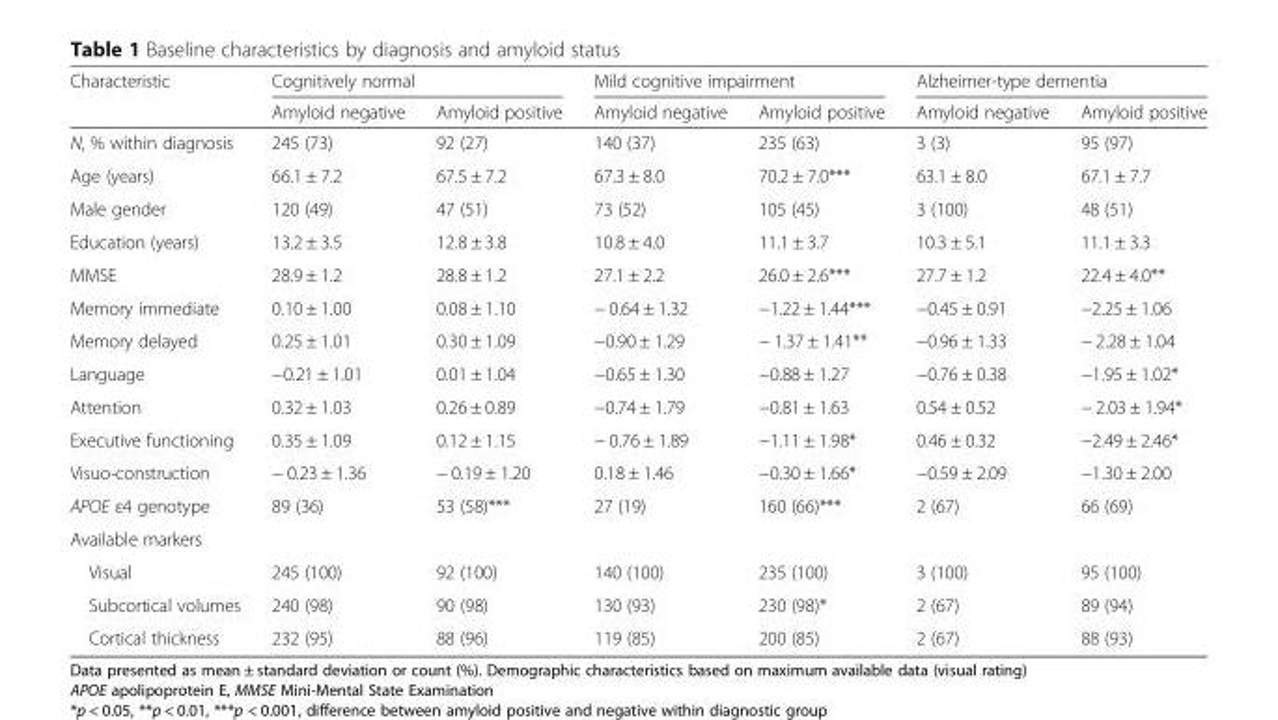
<table><thead><tr><td rowspan="2">Characteristic</td><td colspan="2">Cognitively normal</td><td colspan="2">Mild cognitive impairment</td><td colspan="2">Alzheimer-type dementia</td></tr><tr><td>Amyloid negative</td><td>Amyloid positive</td><td>Amyloid negative</td><td>Amyloid positive</td><td>Amyloid negative</td><td>Amyloid positive</td></tr></thead><tbody><tr><td>N, % within diagnosis</td><td>245 (73)</td><td>92 (27)</td><td>140 (37)</td><td>235 (63)</td><td>3 (3)</td><td>95 (97)</td></tr><tr><td>Age (years)</td><td>66.1 ± 7.2</td><td>67.5 ± 7.2</td><td>67.3 ± 8.0</td><td>70.2 ± 7.0***</td><td>63.1 ± 8.0</td><td>67.1 ± 7.7</td></tr><tr><td>Male gender</td><td>120 (49)</td><td>47 (51)</td><td>73 (52)</td><td>105 (45)</td><td>3 (100)</td><td>48 (51)</td></tr><tr><td>Education (years)</td><td>13.2 ± 3.5</td><td>12.8 ± 3.8</td><td>10.8 ± 4.0</td><td>11.1 ± 3.7</td><td>10.3 ± 5.1</td><td>11.1 ± 3.3</td></tr><tr><td>MMSE</td><td>28.9 ± 1.2</td><td>28.8 ± 1.2</td><td>27.1 ± 2.2</td><td>26.0 ± 2.6***</td><td>27.7 ± 1.2</td><td>22.4 ± 4.0**</td></tr><tr><td>Memory immediate</td><td>0.10 ± 1.00</td><td>0.08 ± 1.10</td><td>− 0.64 ± 1.32</td><td>−1.22 ± 1.44***</td><td>−0.45 ± 0.91</td><td>−2.25 ± 1.06</td></tr><tr><td>Memory delayed</td><td>0.25 ± 1.01</td><td>0.30 ± 1.09</td><td>−0.90 ± 1.29</td><td>− 1.37 ± 1.41**</td><td>−0.96 ± 1.33</td><td>− 2.28 ± 1.04</td></tr><tr><td>Language</td><td>−0.21 ± 1.01</td><td>0.01 ± 1.04</td><td>−0.65 ± 1.30</td><td>−0.88 ± 1.27</td><td>−0.76 ± 0.38</td><td>−1.95 ± 1.02*</td></tr><tr><td>Attention</td><td>0.32 ± 1.03</td><td>0.26 ± 0.89</td><td>−0.74 ± 1.79</td><td>−0.81 ± 1.63</td><td>0.54 ± 0.52</td><td>− 2.03 ± 1.94*</td></tr><tr><td>Executive functioning</td><td>0.35 ± 1.09</td><td>0.12 ± 1.15</td><td>− 0.76 ± 1.89</td><td>−1.11 ± 1.98*</td><td>0.46 ± 0.32</td><td>−2.49 ± 2.46*</td></tr><tr><td>Visuo-construction</td><td>− 0.23 ± 1.36</td><td>− 0.19 ± 1.20</td><td>0.18 ± 1.46</td><td>−0.30 ± 1.66*</td><td>−0.59 ± 2.09</td><td>−1.30 ± 2.00</td></tr><tr><td>APOE ε4 genotype</td><td>89 (36)</td><td>53 (58)***</td><td>27 (19)</td><td>160 (66)***</td><td>2 (67)</td><td>66 (69)</td></tr><tr><td colspan="7">Available markers</td></tr><tr><td>Visual</td><td>245 (100)</td><td>92 (100)</td><td>140 (100)</td><td>235 (100)</td><td>3 (100)</td><td>95 (100)</td></tr><tr><td>Subcortical volumes</td><td>240 (98)</td><td>90 (98)</td><td>130 (93)</td><td>230 (98)*</td><td>2 (67)</td><td>89 (94)</td></tr><tr><td>Cortical thickness</td><td>232 (95)</td><td>88 (96)</td><td>119 (85)</td><td>200 (85)</td><td>2 (67)</td><td>88 (93)</td></tr></tbody></table>